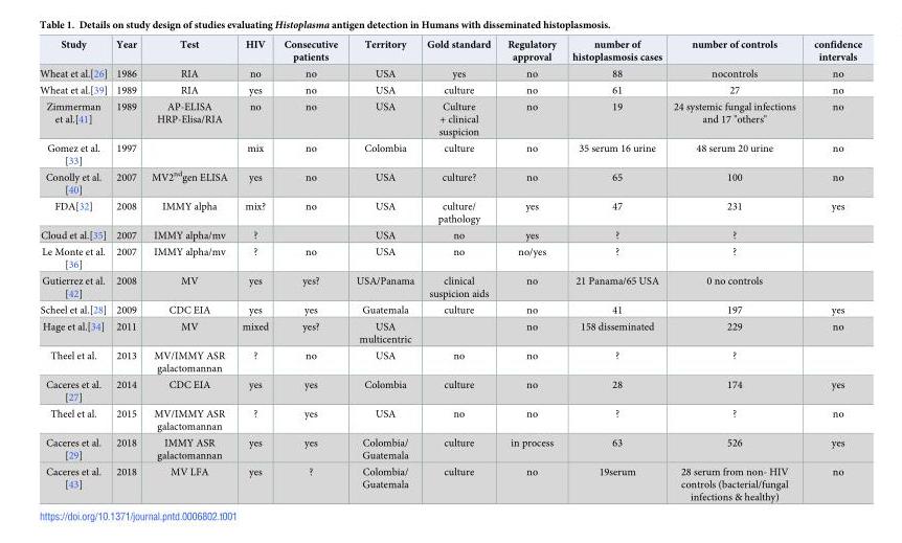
<table><thead><tr><td>Study</td><td>Year</td><td>Test</td><td>HIV</td><td>Consecutive patients</td><td>Territory</td><td>Gold standard</td><td>Regulatory approval</td><td>number of histoplasmosis cases</td><td>number of controls</td><td>confidence intervals</td></tr></thead><tbody><tr><td>Wheat et al.[26]</td><td>1986</td><td>RIA</td><td>no</td><td>no</td><td>USA</td><td>yes</td><td>no</td><td>88</td><td>nocontrols</td><td>no</td></tr><tr><td>Wheat et al.[39]</td><td>1989</td><td>RIA</td><td>yes</td><td>no</td><td>USA</td><td>culture</td><td>no</td><td>61</td><td>27</td><td>no</td></tr><tr><td>Zimmerman et al.[41]</td><td>1989</td><td>AP-ELISA HRP-Elisa/RIA</td><td>no</td><td>no</td><td>USA</td><td>Culture + clinical suspicion</td><td>no</td><td>19</td><td>24 systemic fungal infections and 17 &quot;others&quot;</td><td>no</td></tr><tr><td>Gomez et al. [33]</td><td>1997</td><td></td><td>mix</td><td>no</td><td>Colombia</td><td>culture</td><td>no</td><td>35 serum 16 urine</td><td>48 serum 20 urine</td><td>no</td></tr><tr><td>Conolly et al. [40]</td><td>2007</td><td>MV2<sup>nd</sup>gen ELISA</td><td>yes</td><td>no</td><td>USA</td><td>culture?</td><td>no</td><td>65</td><td>100</td><td>no</td></tr><tr><td>FDA[32]</td><td>2008</td><td>IMMY alpha</td><td>mix?</td><td>no</td><td>USA</td><td>culture/ pathology</td><td>yes</td><td>47</td><td>231</td><td>yes</td></tr><tr><td>Cloud et al.[35]</td><td>2007</td><td>IMMY alpha/mv</td><td>?</td><td></td><td>USA</td><td>no</td><td>yes</td><td>?</td><td>?</td><td></td></tr><tr><td>Le Monte et al. [36]</td><td>2007</td><td>IMMY alpha/mv</td><td>?</td><td>no</td><td>USA</td><td>no</td><td>no/yes</td><td>?</td><td>?</td><td></td></tr><tr><td>Gutierrez et al. [42]</td><td>2008</td><td>MV</td><td>yes</td><td>yes?</td><td>USA/Panama</td><td>clinical suspicion aids</td><td>no</td><td>21 Panama/65 USA</td><td>0 no controls</td><td></td></tr><tr><td>Scheel et al.[28]</td><td>2009</td><td>CDC EIA</td><td>yes</td><td>yes</td><td>Guatemala</td><td>culture</td><td>no</td><td>41</td><td>197</td><td>yes</td></tr><tr><td>Hage et al.[34]</td><td>2011</td><td>MV</td><td>mixed</td><td>yes?</td><td>USA multicentric</td><td></td><td>no</td><td>158 disseminated</td><td>229</td><td>no</td></tr><tr><td>Theel et al.</td><td>2013</td><td>MV/IMMY ASR galactomannan</td><td>?</td><td>no</td><td>USA</td><td>no</td><td>no</td><td>?</td><td>?</td><td></td></tr><tr><td>Caceres et al. [27]</td><td>2014</td><td>CDC EIA</td><td>yes</td><td>yes</td><td>Colombia</td><td>culture</td><td>no</td><td>28</td><td>174</td><td>yes</td></tr><tr><td>Theel et al.</td><td>2015</td><td>MV/IMMY ASR galactomannan</td><td>?</td><td>yes</td><td>USA</td><td>no</td><td>no</td><td>?</td><td>?</td><td>no</td></tr><tr><td>Caceres et al. [29]</td><td>2018</td><td>IMMY ASR galactomannan</td><td>yes</td><td>yes</td><td>Colombia/ Guatemala</td><td>culture</td><td>in process</td><td>63</td><td>526</td><td>yes</td></tr><tr><td>Caceres et al. [43]</td><td>2018</td><td>MV LFA</td><td>yes</td><td>?</td><td>Colombia/ Guatemala</td><td>culture</td><td>no</td><td>19serum</td><td>28 serum from non- HIV controls (bacterial/fungal infections &amp; healthy)</td><td>no</td></tr></tbody></table>